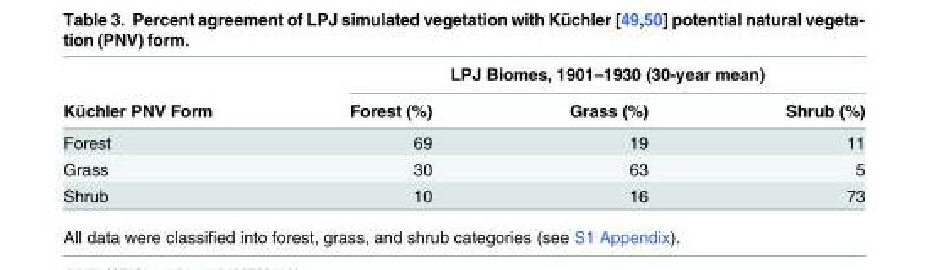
<table><thead><tr><td rowspan="2">Küchler PNV Form</td><td colspan="3">LPJ Biomes, 1901–1930 (30-year mean)</td></tr><tr><td>Forest (%)</td><td>Grass (%)</td><td>Shrub (%)</td></tr></thead><tbody><tr><td>Forest</td><td>69</td><td>19</td><td>11</td></tr><tr><td>Grass</td><td>30</td><td>63</td><td>5</td></tr><tr><td>Shrub</td><td>10</td><td>16</td><td>73</td></tr></tbody></table>